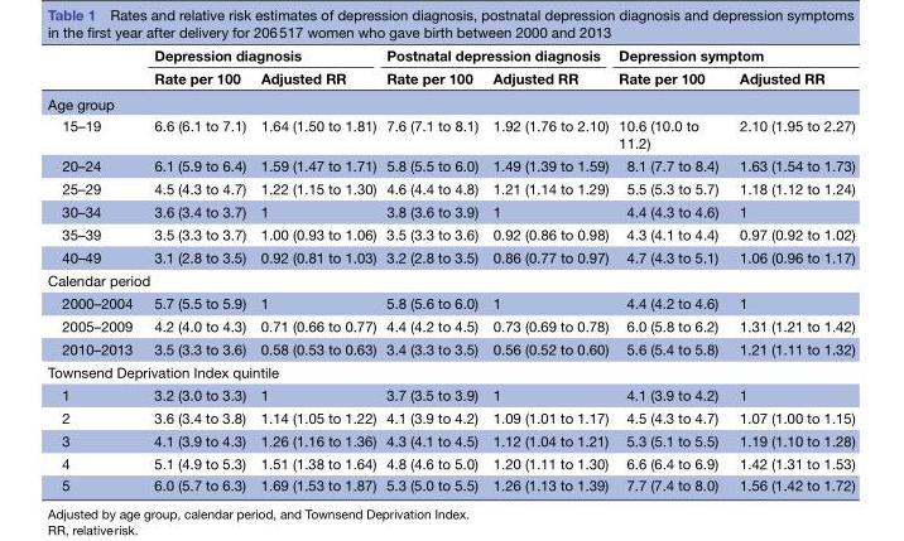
<table><thead><tr><td rowspan="2"></td><td colspan="2">Depression diagnosis</td><td colspan="2">Postnatal depression diagnosis</td><td colspan="2">Depression symptom</td></tr><tr><td>Rate per 100</td><td>Adjusted RR</td><td>Rate per 100</td><td>Adjusted RR</td><td>Rate per 100</td><td>Adjusted RR</td></tr></thead><tbody><tr><td colspan="7">Age group</td></tr><tr><td>15–19</td><td>6.6 (6.1 to 7.1)</td><td>1.64 (1.50 to 1.81)</td><td>7.6 (7.1 to 8.1)</td><td>1.92 (1.76 to 2.10)</td><td>10.6 (10.0 to 11.2)</td><td>2.10 (1.95 to 2.27)</td></tr><tr><td>20–24</td><td>6.1 (5.9 to 6.4)</td><td>1.59 (1.47 to 1.71)</td><td>5.8 (5.5 to 6.0)</td><td>1.49 (1.39 to 1.59)</td><td>8.1 (7.7 to 8.4)</td><td>1.63 (1.54 to 1.73)</td></tr><tr><td>25–29</td><td>4.5 (4.3 to 4.7)</td><td>1.22 (1.15 to 1.30)</td><td>4.6 (4.4 to 4.8)</td><td>1.21 (1.14 to 1.29)</td><td>5.5 (5.3 to 5.7)</td><td>1.18 (1.12 to 1.24)</td></tr><tr><td>30–34</td><td>3.6 (3.4 to 3.7)</td><td>1</td><td>3.8 (3.6 to 3.9)</td><td>1</td><td>4.4 (4.3 to 4.6)</td><td>1</td></tr><tr><td>35–39</td><td>3.5 (3.3 to 3.7)</td><td>1.00 (0.93 to 1.06)</td><td>3.5 (3.3 to 3.6)</td><td>0.92 (0.86 to 0.98)</td><td>4.3 (4.1 to 4.4)</td><td>0.97 (0.92 to 1.02)</td></tr><tr><td>40–49</td><td>3.1 (2.8 to 3.5)</td><td>0.92 (0.81 to 1.03)</td><td>3.2 (2.8 to 3.5)</td><td>0.86 (0.77 to 0.97)</td><td>4.7 (4.3 to 5.1)</td><td>1.06 (0.96 to 1.17)</td></tr><tr><td colspan="7">Calendar period</td></tr><tr><td>2000–2004</td><td>5.7 (5.5 to 5.9)</td><td>1</td><td>5.8 (5.6 to 6.0)</td><td>1</td><td>4.4 (4.2 to 4.6)</td><td>1</td></tr><tr><td>2005–2009</td><td>4.2 (4.0 to 4.3)</td><td>0.71 (0.66 to 0.77)</td><td>4.4 (4.2 to 4.5)</td><td>0.73 (0.69 to 0.78)</td><td>6.0 (5.8 to 6.2)</td><td>1.31 (1.21 to 1.42)</td></tr><tr><td>2010–2013</td><td>3.5 (3.3 to 3.6)</td><td>0.58 (0.53 to 0.63)</td><td>3.4 (3.3 to 3.5)</td><td>0.56 (0.52 to 0.60)</td><td>5.6 (5.4 to 5.8)</td><td>1.21 (1.11 to 1.32)</td></tr><tr><td colspan="7">Townsend Deprivation Index quintile</td></tr><tr><td>1</td><td>3.2 (3.0 to 3.3)</td><td>1</td><td>3.7 (3.5 to 3.9)</td><td>1</td><td>4.1 (3.9 to 4.2)</td><td>1</td></tr><tr><td>2</td><td>3.6 (3.4 to 3.8)</td><td>1.14 (1.05 to 1.22)</td><td>4.1 (3.9 to 4.2)</td><td>1.09 (1.01 to 1.17)</td><td>4.5 (4.3 to 4.7)</td><td>1.07 (1.00 to 1.15)</td></tr><tr><td>3</td><td>4.1 (3.9 to 4.3)</td><td>1.26 (1.16 to 1.36)</td><td>4.3 (4.1 to 4.5)</td><td>1.12 (1.04 to 1.21)</td><td>5.3 (5.1 to 5.5)</td><td>1.19 (1.10 to 1.28)</td></tr><tr><td>4</td><td>5.1 (4.9 to 5.3)</td><td>1.51 (1.38 to 1.64)</td><td>4.8 (4.6 to 5.0)</td><td>1.20 (1.11 to 1.30)</td><td>6.6 (6.4 to 6.9)</td><td>1.42 (1.31 to 1.53)</td></tr><tr><td>5</td><td>6.0 (5.7 to 6.3)</td><td>1.69 (1.53 to 1.87)</td><td>5.3 (5.0 to 5.5)</td><td>1.26 (1.13 to 1.39)</td><td>7.7 (7.4 to 8.0)</td><td>1.56 (1.42 to 1.72)</td></tr></tbody></table>